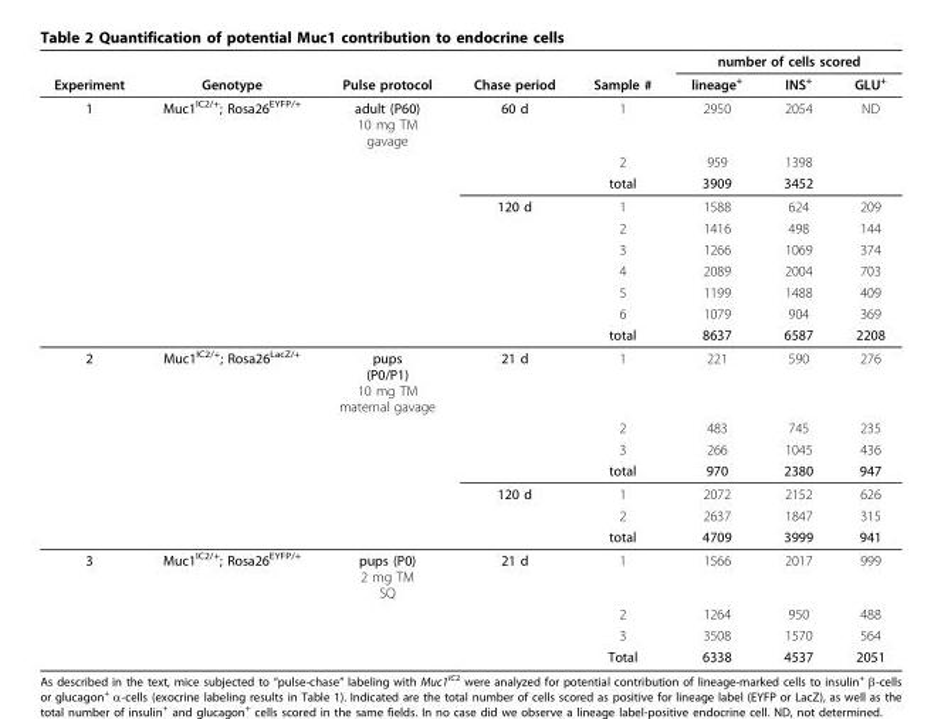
<table><thead><tr><td rowspan="2">Experiment</td><td rowspan="2">Genotype</td><td rowspan="2">Pulse protocol</td><td rowspan="2">Chase period</td><td rowspan="2">Sample #</td><td colspan="3">number of cells scored</td></tr><tr><td>lineage<sup>+</sup></td><td>INS<sup>+</sup></td><td>GLU<sup>+</sup></td></tr></thead><tbody><tr><td rowspan="10">1</td><td>Muc1<sup>IC2/+</sup>; Rosa26<sup>EYFP/+</sup></td><td>adult (P60) 10 mg TM gavage</td><td>60 d</td><td>1</td><td>2950</td><td>2054</td><td>ND</td></tr><tr><td></td><td></td><td></td><td>2</td><td>959</td><td>1398</td><td></td></tr><tr><td></td><td></td><td></td><td>total</td><td>3909</td><td>3452</td><td></td></tr><tr><td></td><td></td><td>120 d</td><td>1</td><td>1588</td><td>624</td><td>209</td></tr><tr><td></td><td></td><td></td><td>2</td><td>1416</td><td>498</td><td>144</td></tr><tr><td></td><td></td><td></td><td>3</td><td>1266</td><td>1069</td><td>374</td></tr><tr><td></td><td></td><td></td><td>4</td><td>2089</td><td>2004</td><td>703</td></tr><tr><td></td><td></td><td></td><td>5</td><td>1199</td><td>1488</td><td>409</td></tr><tr><td></td><td></td><td></td><td>6</td><td>1079</td><td>904</td><td>369</td></tr><tr><td></td><td></td><td></td><td>total</td><td>8637</td><td>6587</td><td>2208</td></tr><tr><td rowspan="7">2</td><td>Muc1<sup>IC2/+</sup>; Rosa26<sup>LacZ/+</sup></td><td>pups (P0/P1) 10 mg TM maternal gavage</td><td>21 d</td><td>1</td><td>221</td><td>590</td><td>276</td></tr><tr><td></td><td></td><td></td><td>2</td><td>483</td><td>745</td><td>235</td></tr><tr><td></td><td></td><td></td><td>3</td><td>266</td><td>1045</td><td>436</td></tr><tr><td></td><td></td><td></td><td>total</td><td>970</td><td>2380</td><td>947</td></tr><tr><td></td><td></td><td>120 d</td><td>1</td><td>2072</td><td>2152</td><td>626</td></tr><tr><td></td><td></td><td></td><td>2</td><td>2637</td><td>1847</td><td>315</td></tr><tr><td></td><td></td><td></td><td>total</td><td>4709</td><td>3999</td><td>941</td></tr><tr><td rowspan="4">3</td><td>Muc1<sup>IC2/+</sup>; Rosa26<sup>EYFP/+</sup></td><td>pups (P0) 2 mg TM SQ</td><td>21 d</td><td>1</td><td>1566</td><td>2017</td><td>999</td></tr><tr><td></td><td></td><td></td><td>2</td><td>1264</td><td>950</td><td>488</td></tr><tr><td></td><td></td><td></td><td>3</td><td>3508</td><td>1570</td><td>564</td></tr><tr><td></td><td></td><td></td><td>Total</td><td>6338</td><td>4537</td><td>2051</td></tr></tbody></table>